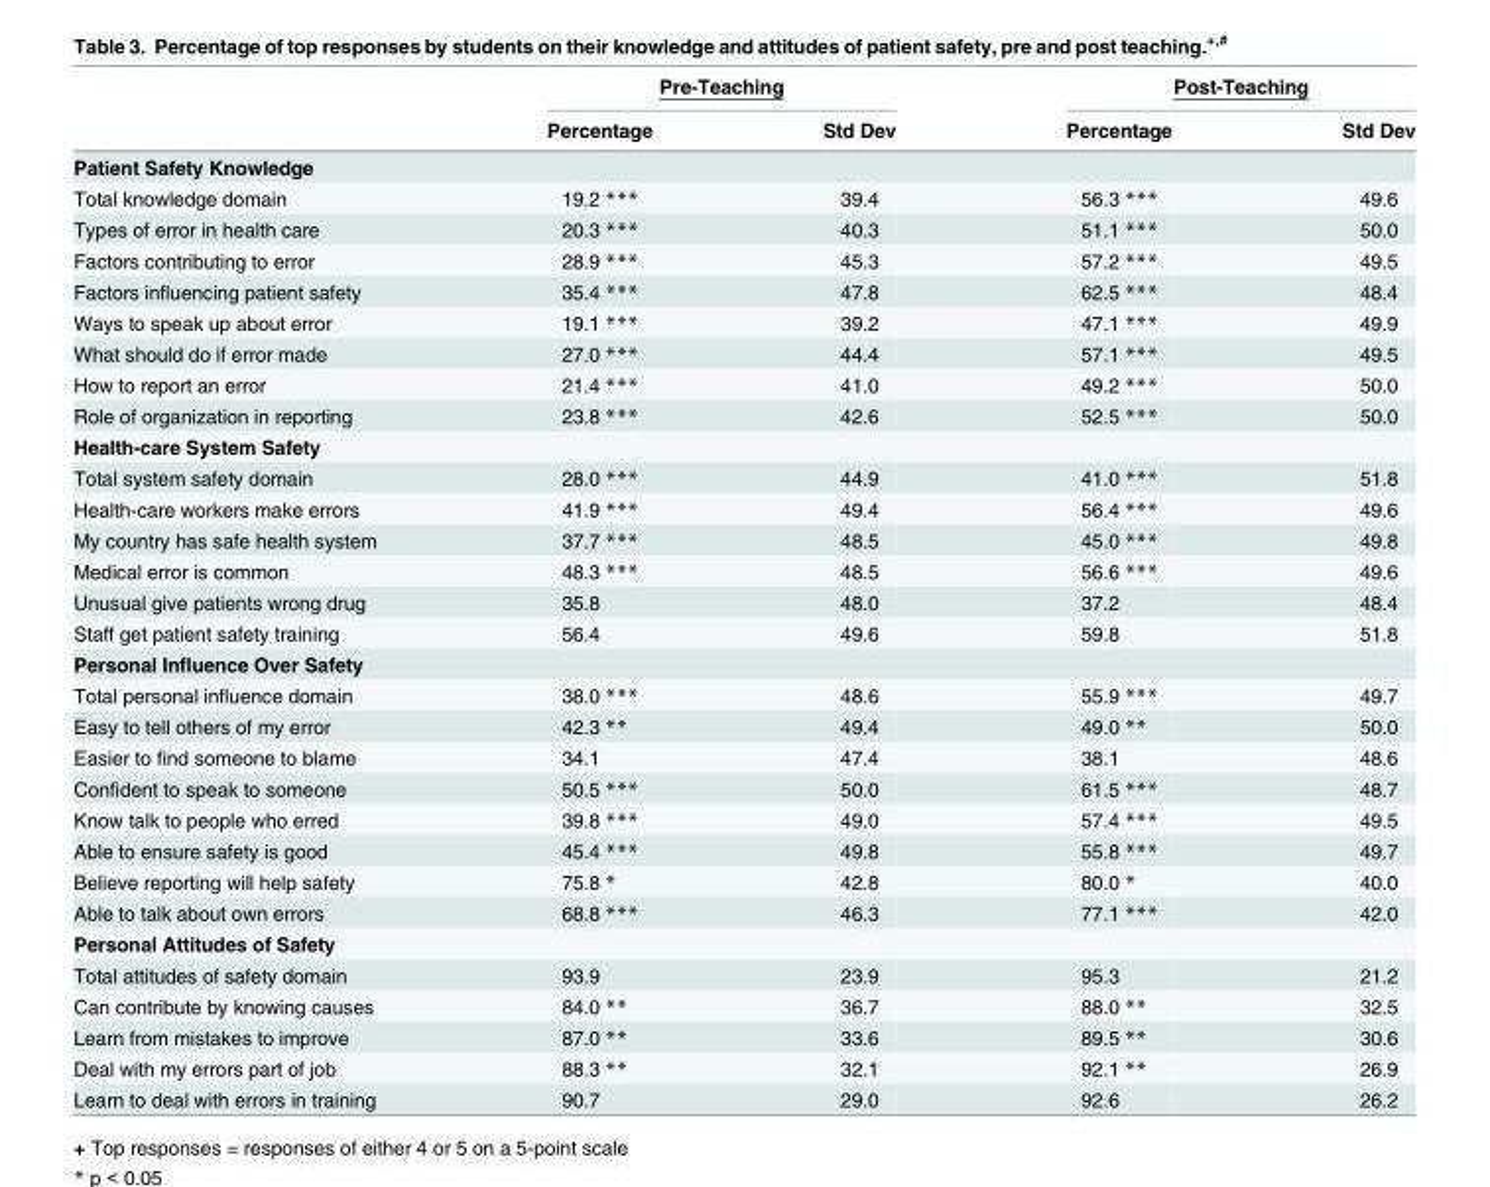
<table><thead><tr><td rowspan="2"></td><td colspan="2">Pre-Teaching</td><td colspan="2">Post-Teaching</td></tr><tr><td>Percentage</td><td>Std Dev</td><td>Percentage</td><td>Std Dev</td></tr></thead><tbody><tr><td colspan="5">Patient Safety Knowledge</td></tr><tr><td>Total knowledge domain</td><td>19.2 ***</td><td>39.4</td><td>56.3 ***</td><td>49.6</td></tr><tr><td>Types of error in health care</td><td>20.3 ***</td><td>40.3</td><td>51.1 ***</td><td>50.0</td></tr><tr><td>Factors contributing to error</td><td>28.9 ***</td><td>45.3</td><td>57.2 ***</td><td>49.5</td></tr><tr><td>Factors influencing patient safety</td><td>35.4 ***</td><td>47.8</td><td>62.5 ***</td><td>48.4</td></tr><tr><td>Ways to speak up about error</td><td>19.1 ***</td><td>39.2</td><td>47.1 ***</td><td>49.9</td></tr><tr><td>What should do if error made</td><td>27.0 ***</td><td>44.4</td><td>57.1 ***</td><td>49.5</td></tr><tr><td>How to report an error</td><td>21.4 ***</td><td>41.0</td><td>49.2 ***</td><td>50.0</td></tr><tr><td>Role of organization in reporting</td><td>23.8 ***</td><td>42.6</td><td>52.5 ***</td><td>50.0</td></tr><tr><td colspan="5">Health-care System Safety</td></tr><tr><td>Total system safety domain</td><td>28.0 ***</td><td>44.9</td><td>41.0 ***</td><td>51.8</td></tr><tr><td>Health-care workers make errors</td><td>41.9 ***</td><td>49.4</td><td>56.4 ***</td><td>49.6</td></tr><tr><td>My country has safe health system</td><td>37.7 ***</td><td>48.5</td><td>45.0 ***</td><td>49.8</td></tr><tr><td>Medical error is common</td><td>48.3 ***</td><td>48.5</td><td>56.6 ***</td><td>49.6</td></tr><tr><td>Unusual give patients wrong drug</td><td>35.8</td><td>48.0</td><td>37.2</td><td>48.4</td></tr><tr><td>Staff get patient safety training</td><td>56.4</td><td>49.6</td><td>59.8</td><td>51.8</td></tr><tr><td colspan="5">Personal Influence Over Safety</td></tr><tr><td>Total personal influence domain</td><td>38.0 ***</td><td>48.6</td><td>55.9 ***</td><td>49.7</td></tr><tr><td>Easy to tell others of my error</td><td>42.3 **</td><td>49.4</td><td>49.0 **</td><td>50.0</td></tr><tr><td>Easier to find someone to blame</td><td>34.1</td><td>47.4</td><td>38.1</td><td>48.6</td></tr><tr><td>Confident to speak to someone</td><td>50.5 ***</td><td>50.0</td><td>61.5 ***</td><td>48.7</td></tr><tr><td>Know talk to people who erred</td><td>39.8 ***</td><td>49.0</td><td>57.4 ***</td><td>49.5</td></tr><tr><td>Able to ensure safety is good</td><td>45.4 ***</td><td>49.8</td><td>55.8 ***</td><td>49.7</td></tr><tr><td>Believe reporting will help safety</td><td>75.8 *</td><td>42.8</td><td>80.0 *</td><td>40.0</td></tr><tr><td>Able to talk about own errors</td><td>68.8 ***</td><td>46.3</td><td>77.1 ***</td><td>42.0</td></tr><tr><td colspan="5">Personal Attitudes of Safety</td></tr><tr><td>Total attitudes of safety domain</td><td>93.9</td><td>23.9</td><td>95.3</td><td>21.2</td></tr><tr><td>Can contribute by knowing causes</td><td>84.0 **</td><td>36.7</td><td>88.0 **</td><td>32.5</td></tr><tr><td>Learn from mistakes to improve</td><td>87.0 **</td><td>33.6</td><td>89.5 **</td><td>30.6</td></tr><tr><td>Deal with my errors part of job</td><td>88.3 **</td><td>32.1</td><td>92.1 **</td><td>26.9</td></tr><tr><td>Learn to deal with errors in training</td><td>90.7</td><td>29.0</td><td>92.6</td><td>26.2</td></tr></tbody></table>